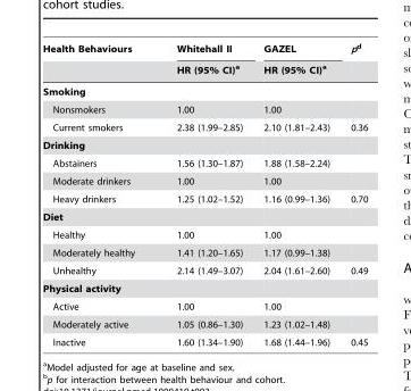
<table><thead><tr><td rowspan="2">Health Behaviours</td><td rowspan="2">Whitehall II HR (95% CI)<sup>a</sup></td><td rowspan="2">GAZEL HR (95% CI)<sup>a</sup></td><td rowspan="2">pd</td></tr><tr></tr></thead><tbody><tr><td colspan="4">Smoking</td></tr><tr><td>Nonsmokers</td><td>1.00</td><td>1.00</td><td></td></tr><tr><td>Current smokers</td><td>2.38 (1.99–2.85)</td><td>2.10 (1.81–2.43)</td><td>0.36</td></tr><tr><td colspan="4">Drinking</td></tr><tr><td>Abstainers</td><td>1.56 (1.30–1.87)</td><td>1.88 (1.58–2.24)</td><td></td></tr><tr><td>Moderate drinkers</td><td>1.00</td><td>1.00</td><td></td></tr><tr><td>Heavy drinkers</td><td>1.25 (1.02–1.52)</td><td>1.16 (0.99–1.36)</td><td>0.70</td></tr><tr><td colspan="4">Diet</td></tr><tr><td>Healthy</td><td>1.00</td><td>1.00</td><td></td></tr><tr><td>Moderately healthy</td><td>1.41 (1.20–1.65)</td><td>1.17 (0.99–1.38)</td><td></td></tr><tr><td>Unhealthy</td><td>2.14 (1.49–3.07)</td><td>2.04 (1.61–2.60)</td><td>0.49</td></tr><tr><td colspan="4">Physical activity</td></tr><tr><td>Active</td><td>1.00</td><td>1.00</td><td></td></tr><tr><td>Moderately active</td><td>1.05 (0.86–1.30)</td><td>1.23 (1.02–1.48)</td><td></td></tr><tr><td>Inactive</td><td>1.60 (1.34–1.90)</td><td>1.68 (1.44–1.96)</td><td>0.45</td></tr></tbody></table>